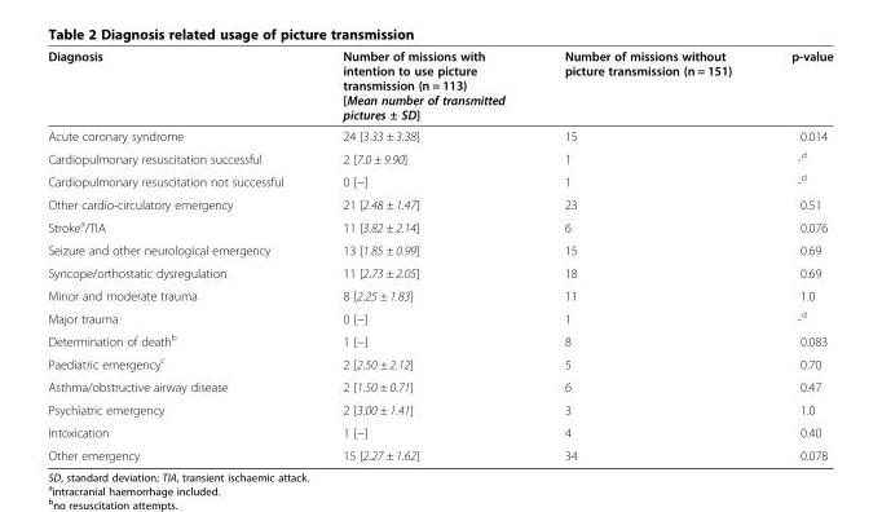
<table><thead><tr><td>Diagnosis</td><td>Number of missions with intention to use picture transmission (n = 113) [Mean number of transmitted pictures ± SD]</td><td>Number of missions without picture transmission (n = 151)</td><td>p-value</td></tr></thead><tbody><tr><td>Acute coronary syndrome</td><td>24 [3.33 ± 3.38]</td><td>15</td><td>0.014</td></tr><tr><td>Cardiopulmonary resuscitation successful</td><td>2 [7.0 ± 9.90]</td><td>1</td><td>-<sup>d</sup></td></tr><tr><td>Cardiopulmonary resuscitation not successful</td><td>0 [−]</td><td>1</td><td>-<sup>d</sup></td></tr><tr><td>Other cardio-circulatory emergency</td><td>21 [2.48 ± 1.47]</td><td>23</td><td>0.51</td></tr><tr><td>Stroke<sup>a</sup>/TIA</td><td>11 [3.82 ± 2.14]</td><td>6</td><td>0.076</td></tr><tr><td>Seizure and other neurological emergency</td><td>13 [1.85 ± 0.99]</td><td>15</td><td>0.69</td></tr><tr><td>Syncope/orthostatic dysregulation</td><td>11 [2.73 ± 2.05]</td><td>18</td><td>0.69</td></tr><tr><td>Minor and moderate trauma</td><td>8 [2.25 ± 1.83]</td><td>11</td><td>1.0</td></tr><tr><td>Major trauma</td><td>0 [−]</td><td>1</td><td>-<sup>d</sup></td></tr><tr><td>Determination of death<sup>b</sup></td><td>1 [−]</td><td>8</td><td>0.083</td></tr><tr><td>Paediatric emergency<sup>c</sup></td><td>2 [2.50 ± 2.12]</td><td>5</td><td>0.70</td></tr><tr><td>Asthma/obstructive airway disease</td><td>2 [1.50 ± 0.71]</td><td>6</td><td>0.47</td></tr><tr><td>Psychiatric emergency</td><td>2 [3.00 ± 1.41]</td><td>3</td><td>1.0</td></tr><tr><td>Intoxication</td><td>1 [−]</td><td>4</td><td>0.40</td></tr><tr><td>Other emergency</td><td>15 [2.27 ± 1.62]</td><td>34</td><td>0.078</td></tr></tbody></table>